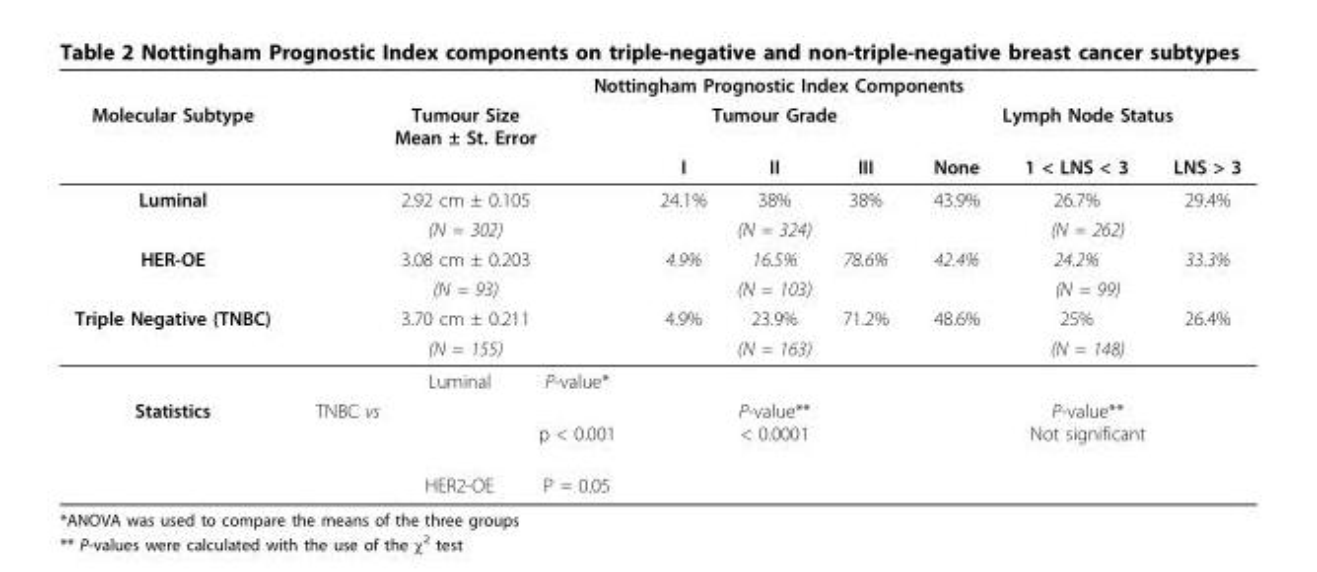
<table><thead><tr><td rowspan="3">Molecular Subtype</td><td colspan="9">Nottingham Prognostic Index Components</td></tr><tr><td colspan="3">Tumour Size Mean ± St. Error</td><td colspan="3">Tumour Grade</td><td colspan="3">Lymph Node Status</td></tr><tr><td></td><td></td><td></td><td>I</td><td>II</td><td>III</td><td>None</td><td>1 &lt; LNS &lt; 3</td><td>LNS &gt; 3</td></tr></thead><tbody><tr><td rowspan="2">Luminal</td><td colspan="3">2.92 cm ± 0.105</td><td>24.1%</td><td>38%</td><td>38%</td><td>43.9%</td><td>26.7%</td><td>29.4%</td></tr><tr><td colspan="3">(N = 302)</td><td colspan="3">(N = 324)</td><td colspan="3">(N = 262)</td></tr><tr><td rowspan="2">HER-OE</td><td colspan="3">3.08 cm ± 0.203</td><td>4.9%</td><td>16.5%</td><td>78.6%</td><td>42.4%</td><td>24.2%</td><td>33.3%</td></tr><tr><td colspan="3">(N = 93)</td><td colspan="3">(N = 103)</td><td colspan="3">(N = 99)</td></tr><tr><td rowspan="3">Triple Negative (TNBC)</td><td colspan="3">3.70 cm ± 0.211</td><td>4.9%</td><td>23.9%</td><td>71.2%</td><td>48.6%</td><td>25%</td><td>26.4%</td></tr><tr><td colspan="3">(N = 155)</td><td colspan="3">(N = 163)</td><td colspan="3">(N = 148)</td></tr><tr><td></td><td>Luminal</td><td>P-value*</td><td></td><td></td><td></td><td></td><td></td><td></td></tr><tr><td rowspan="2">Statistics</td><td>TNBC vs</td><td></td><td>p &lt; 0.001</td><td colspan="3">P-value** &lt; 0.0001</td><td colspan="3">P-value** Not significant</td></tr><tr><td></td><td>HER2-OE</td><td>P = 0.05</td><td></td><td></td><td></td><td></td><td></td><td></td></tr></tbody></table>